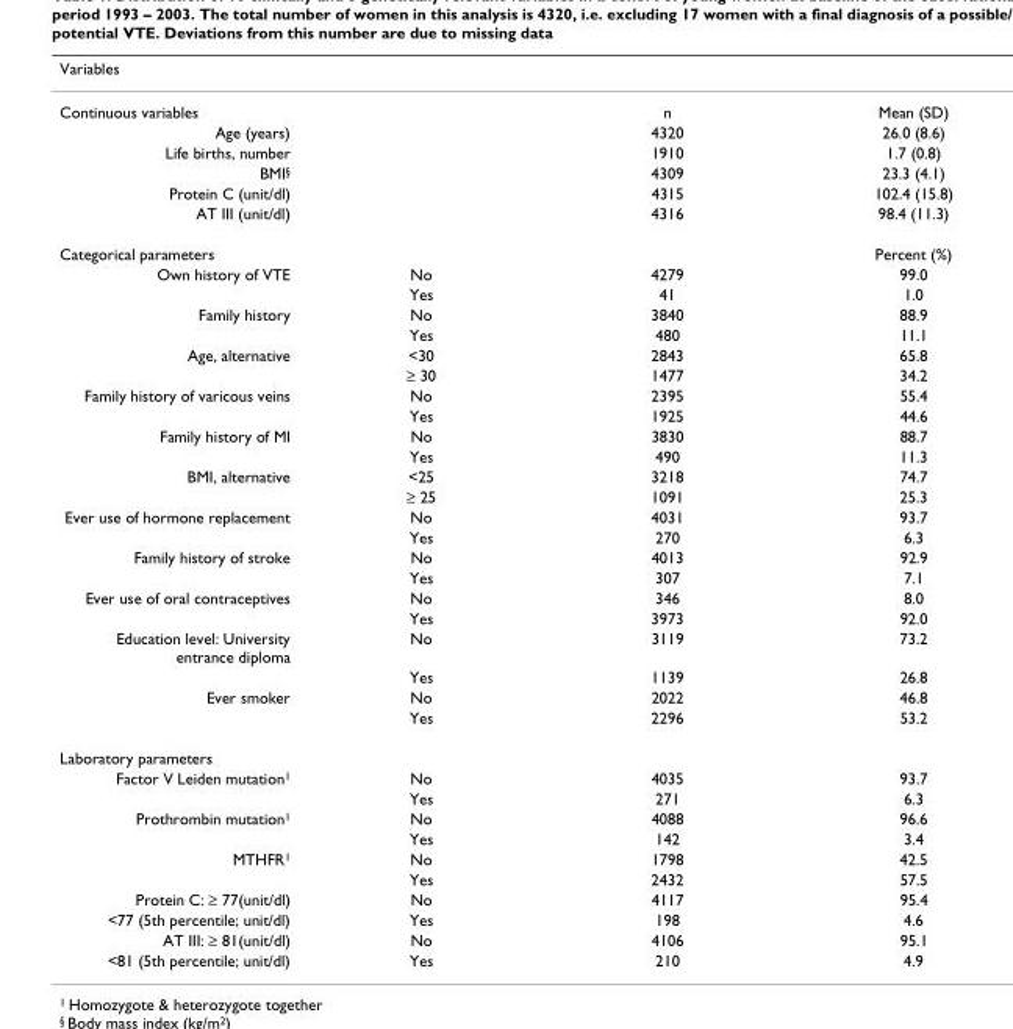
<table><thead><tr><td>Variables</td><td></td><td></td><td></td></tr></thead><tbody><tr><td>Continuous variables</td><td></td><td>n</td><td>Mean (SD)</td></tr><tr><td>Age (years)</td><td></td><td>4320</td><td>26.0 (8.6)</td></tr><tr><td>Life births, number</td><td></td><td>1910</td><td>1.7 (0.8)</td></tr><tr><td>BMI<sup>§</sup></td><td></td><td>4309</td><td>23.3 (4.1)</td></tr><tr><td>Protein C (unit/dl)</td><td></td><td>4315</td><td>102.4 (15.8)</td></tr><tr><td>AT III (unit/dl)</td><td></td><td>4316</td><td>98.4 (11.3)</td></tr><tr><td>Categorical parameters</td><td></td><td></td><td>Percent (%)</td></tr><tr><td rowspan="2">Own history of VTE</td><td>No</td><td>4279</td><td>99.0</td></tr><tr><td>Yes</td><td>41</td><td>1.0</td></tr><tr><td rowspan="2">Family history</td><td>No</td><td>3840</td><td>88.9</td></tr><tr><td>Yes</td><td>480</td><td>11.1</td></tr><tr><td rowspan="2">Age, alternative</td><td>&lt;30</td><td>2843</td><td>65.8</td></tr><tr><td>≥ 30</td><td>1477</td><td>34.2</td></tr><tr><td rowspan="2">Family history of varicous veins</td><td>No</td><td>2395</td><td>55.4</td></tr><tr><td>Yes</td><td>1925</td><td>44.6</td></tr><tr><td rowspan="2">Family history of MI</td><td>No</td><td>3830</td><td>88.7</td></tr><tr><td>Yes</td><td>490</td><td>11.3</td></tr><tr><td rowspan="2">BMI, alternative</td><td>&lt;25</td><td>3218</td><td>74.7</td></tr><tr><td>≥ 25</td><td>1091</td><td>25.3</td></tr><tr><td rowspan="2">Ever use of hormone replacement</td><td>No</td><td>4031</td><td>93.7</td></tr><tr><td>Yes</td><td>270</td><td>6.3</td></tr><tr><td rowspan="2">Family history of stroke</td><td>No</td><td>4013</td><td>92.9</td></tr><tr><td>Yes</td><td>307</td><td>7.1</td></tr><tr><td rowspan="2">Ever use of oral contraceptives</td><td>No</td><td>346</td><td>8.0</td></tr><tr><td>Yes</td><td>3973</td><td>92.0</td></tr><tr><td rowspan="2">Education level: University entrance diploma</td><td>No</td><td>3119</td><td>73.2</td></tr><tr><td>Yes</td><td>1139</td><td>26.8</td></tr><tr><td rowspan="2">Ever smoker</td><td>No</td><td>2022</td><td>46.8</td></tr><tr><td>Yes</td><td>2296</td><td>53.2</td></tr><tr><td colspan="4">Laboratory parameters</td></tr><tr><td rowspan="2">Factor V Leiden mutation<sup>1</sup></td><td>No</td><td>4035</td><td>93.7</td></tr><tr><td>Yes</td><td>271</td><td>6.3</td></tr><tr><td rowspan="2">Prothrombin mutation<sup>1</sup></td><td>No</td><td>4088</td><td>96.6</td></tr><tr><td>Yes</td><td>142</td><td>3.4</td></tr><tr><td rowspan="2">MTHFR<sup>1</sup></td><td>No</td><td>1798</td><td>42.5</td></tr><tr><td>Yes</td><td>2432</td><td>57.5</td></tr><tr><td>Protein C: ≥ 77(unit/dl)</td><td>No</td><td>4117</td><td>95.4</td></tr><tr><td>&lt;77 (5th percentile; unit/dl)</td><td>Yes</td><td>198</td><td>4.6</td></tr><tr><td>AT III: ≥ 81(unit/dl)</td><td>No</td><td>4106</td><td>95.1</td></tr><tr><td>&lt;81 (5th percentile; unit/dl)</td><td>Yes</td><td>210</td><td>4.9</td></tr></tbody></table>